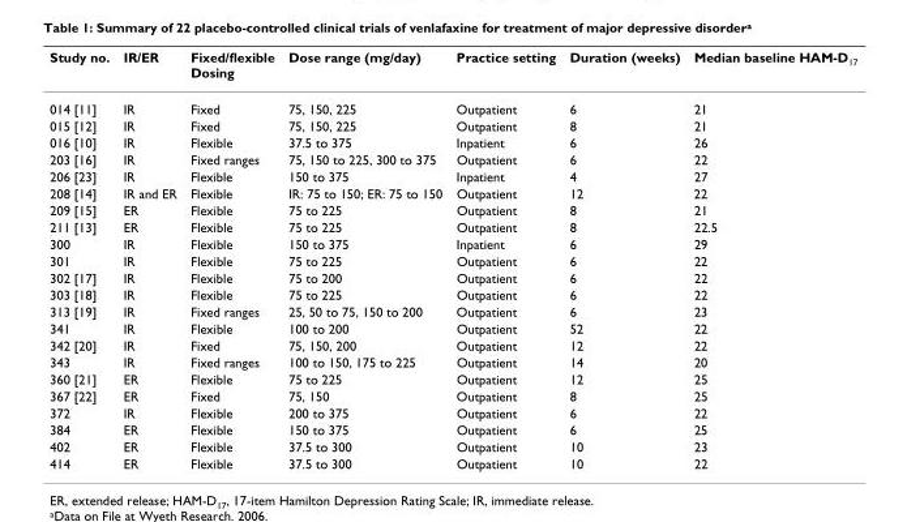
<table><thead><tr><td>Study no.</td><td>IR/ER</td><td>Fixed/flexible Dosing</td><td>Dose range (mg/day)</td><td>Practice setting</td><td>Duration (weeks)</td><td>Median baseline HAM-D<sub>17</sub></td></tr></thead><tbody><tr><td>014 [11]</td><td>IR</td><td>Fixed</td><td>75, 150, 225</td><td>Outpatient</td><td>6</td><td>21</td></tr><tr><td>015 [12]</td><td>IR</td><td>Fixed</td><td>75, 150, 225</td><td>Outpatient</td><td>8</td><td>21</td></tr><tr><td>016 [10]</td><td>IR</td><td>Flexible</td><td>37.5 to 375</td><td>Inpatient</td><td>6</td><td>26</td></tr><tr><td>203 [16]</td><td>IR</td><td>Fixed ranges</td><td>75, 150 to 225, 300 to 375</td><td>Outpatient</td><td>6</td><td>22</td></tr><tr><td>206 [23]</td><td>IR</td><td>Flexible</td><td>150 to 375</td><td>Inpatient</td><td>4</td><td>27</td></tr><tr><td>208 [14]</td><td>IR and ER</td><td>Flexible</td><td>IR: 75 to 150; ER: 75 to 150</td><td>Outpatient</td><td>12</td><td>22</td></tr><tr><td>209 [15]</td><td>ER</td><td>Flexible</td><td>75 to 225</td><td>Outpatient</td><td>8</td><td>21</td></tr><tr><td>211 [13]</td><td>ER</td><td>Flexible</td><td>75 to 225</td><td>Outpatient</td><td>8</td><td>22.5</td></tr><tr><td>300</td><td>IR</td><td>Flexible</td><td>150 to 375</td><td>Inpatient</td><td>6</td><td>29</td></tr><tr><td>301</td><td>IR</td><td>Flexible</td><td>75 to 225</td><td>Outpatient</td><td>6</td><td>22</td></tr><tr><td>302 [17]</td><td>IR</td><td>Flexible</td><td>75 to 200</td><td>Outpatient</td><td>6</td><td>22</td></tr><tr><td>303 [18]</td><td>IR</td><td>Flexible</td><td>75 to 225</td><td>Outpatient</td><td>6</td><td>22</td></tr><tr><td>313 [19]</td><td>IR</td><td>Fixed ranges</td><td>25, 50 to 75, 150 to 200</td><td>Outpatient</td><td>6</td><td>23</td></tr><tr><td>341</td><td>IR</td><td>Flexible</td><td>100 to 200</td><td>Outpatient</td><td>52</td><td>22</td></tr><tr><td>342 [20]</td><td>IR</td><td>Fixed</td><td>75, 150, 200</td><td>Outpatient</td><td>12</td><td>22</td></tr><tr><td>343</td><td>IR</td><td>Fixed ranges</td><td>100 to 150, 175 to 225</td><td>Outpatient</td><td>14</td><td>20</td></tr><tr><td>360 [21]</td><td>ER</td><td>Flexible</td><td>75 to 225</td><td>Outpatient</td><td>12</td><td>25</td></tr><tr><td>367 [22]</td><td>ER</td><td>Fixed</td><td>75, 150</td><td>Outpatient</td><td>8</td><td>25</td></tr><tr><td>372</td><td>IR</td><td>Flexible</td><td>200 to 375</td><td>Outpatient</td><td>6</td><td>22</td></tr><tr><td>384</td><td>ER</td><td>Flexible</td><td>150 to 375</td><td>Outpatient</td><td>6</td><td>25</td></tr><tr><td>402</td><td>ER</td><td>Flexible</td><td>37.5 to 300</td><td>Outpatient</td><td>10</td><td>23</td></tr><tr><td>414</td><td>ER</td><td>Flexible</td><td>37.5 to 300</td><td>Outpatient</td><td>10</td><td>22</td></tr></tbody></table>